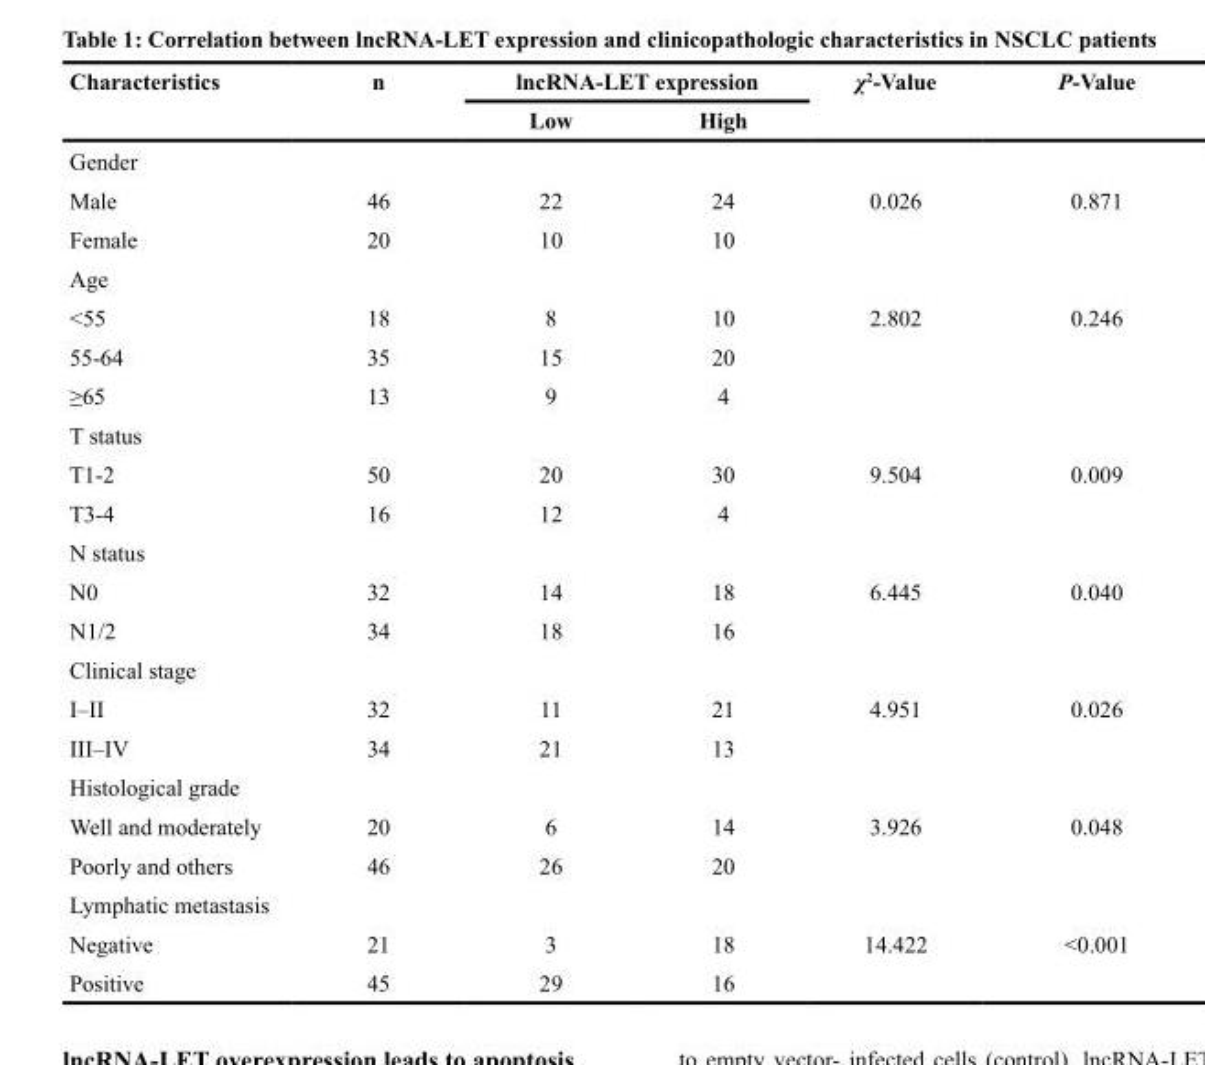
<table><thead><tr><td rowspan="2">Characteristics</td><td rowspan="2">n</td><td colspan="2">lncRNA-LET expression</td><td rowspan="2">χ<sup>2</sup>-Value</td><td rowspan="2">P-Value</td></tr><tr><td>Low</td><td>High</td></tr></thead><tbody><tr><td colspan="6">Gender</td></tr><tr><td>Male</td><td>46</td><td>22</td><td>24</td><td>0.026</td><td>0.871</td></tr><tr><td>Female</td><td>20</td><td>10</td><td>10</td><td></td><td></td></tr><tr><td colspan="6">Age</td></tr><tr><td>&lt;55</td><td>18</td><td>8</td><td>10</td><td>2.802</td><td>0.246</td></tr><tr><td>55-64</td><td>35</td><td>15</td><td>20</td><td></td><td></td></tr><tr><td>≥65</td><td>13</td><td>9</td><td>4</td><td></td><td></td></tr><tr><td colspan="6">T status</td></tr><tr><td>T1-2</td><td>50</td><td>20</td><td>30</td><td>9.504</td><td>0.009</td></tr><tr><td>T3-4</td><td>16</td><td>12</td><td>4</td><td></td><td></td></tr><tr><td colspan="6">N status</td></tr><tr><td>N0</td><td>32</td><td>14</td><td>18</td><td>6.445</td><td>0.040</td></tr><tr><td>N1/2</td><td>34</td><td>18</td><td>16</td><td></td><td></td></tr><tr><td colspan="6">Clinical stage</td></tr><tr><td>I–II</td><td>32</td><td>11</td><td>21</td><td>4.951</td><td>0.026</td></tr><tr><td>III–IV</td><td>34</td><td>21</td><td>13</td><td></td><td></td></tr><tr><td colspan="6">Histological grade</td></tr><tr><td>Well and moderately</td><td>20</td><td>6</td><td>14</td><td>3.926</td><td>0.048</td></tr><tr><td>Poorly and others</td><td>46</td><td>26</td><td>20</td><td></td><td></td></tr><tr><td colspan="6">Lymphatic metastasis</td></tr><tr><td>Negative</td><td>21</td><td>3</td><td>18</td><td>14.422</td><td>&lt;0.001</td></tr><tr><td>Positive</td><td>45</td><td>29</td><td>16</td><td></td><td></td></tr></tbody></table>